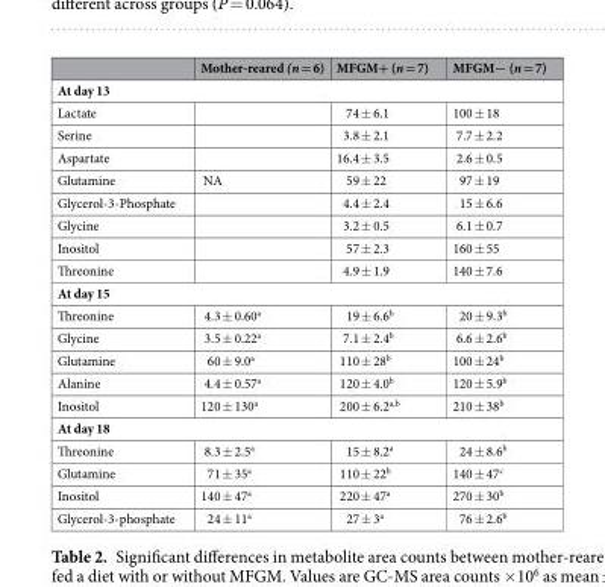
<table><thead><tr><td></td><td>Mother-reared (n = 6)</td><td>MFGM+ (n = 7)</td><td>MFGM− (n = 7)</td></tr></thead><tbody><tr><td colspan="4">At day 13</td></tr><tr><td>Lactate</td><td></td><td>74 ± 6.1</td><td>100 ± 18</td></tr><tr><td>Serine</td><td></td><td>3.8 ± 2.1</td><td>7.7 ± 2.2</td></tr><tr><td>Aspartate</td><td></td><td>16.4 ± 3.5</td><td>2.6 ± 0.5</td></tr><tr><td>Glutamine</td><td>NA</td><td>59 ± 22</td><td>97 ± 19</td></tr><tr><td>Glycerol-3-Phosphate</td><td></td><td>4.4 ± 2.4</td><td>15 ± 6.6</td></tr><tr><td>Glycine</td><td></td><td>3.2 ± 0.5</td><td>6.1 ± 0.7</td></tr><tr><td>Inositol</td><td></td><td>57 ± 2.3</td><td>160 ± 55</td></tr><tr><td>Threonine</td><td></td><td>4.9 ± 1.9</td><td>140 ± 7.6</td></tr><tr><td colspan="4">At day 15</td></tr><tr><td>Threonine</td><td>4.3 ± 0.60<sup>a</sup></td><td>19 ± 6.6<sup>b</sup></td><td>20 ± 9.3<sup>b</sup></td></tr><tr><td>Glycine</td><td>3.5 ± 0.22<sup>a</sup></td><td>7.1 ± 2.4<sup>b</sup></td><td>6.6 ± 2.6<sup>b</sup></td></tr><tr><td>Glutamine</td><td>60 ± 9.0<sup>a</sup></td><td>110 ± 28<sup>b</sup></td><td>100 ± 24<sup>b</sup></td></tr><tr><td>Alanine</td><td>4.4 ± 0.57<sup>a</sup></td><td>120 ± 4.0<sup>b</sup></td><td>120 ± 5.9<sup>b</sup></td></tr><tr><td>Inositol</td><td>120 ± 130<sup>a</sup></td><td>200 ± 6.2<sup>a,b</sup></td><td>210 ± 38<sup>b</sup></td></tr><tr><td colspan="4">At day 18</td></tr><tr><td>Threonine</td><td>8.3 ± 2.5<sup>a</sup></td><td>15 ± 8.2<sup>a</sup></td><td>24 ± 8.6<sup>b</sup></td></tr><tr><td>Glutamine</td><td>71 ± 35<sup>a</sup></td><td>110 ± 22<sup>b</sup></td><td>140 ± 47<sup>c</sup></td></tr><tr><td>Inositol</td><td>140 ± 47<sup>a</sup></td><td>220 ± 47<sup>a</sup></td><td>270 ± 30<sup>b</sup></td></tr><tr><td>Glycerol-3-phosphate</td><td>24 ± 11<sup>a</sup></td><td>27 ± 3<sup>a</sup></td><td>76 ± 2.6<sup>b</sup></td></tr></tbody></table>